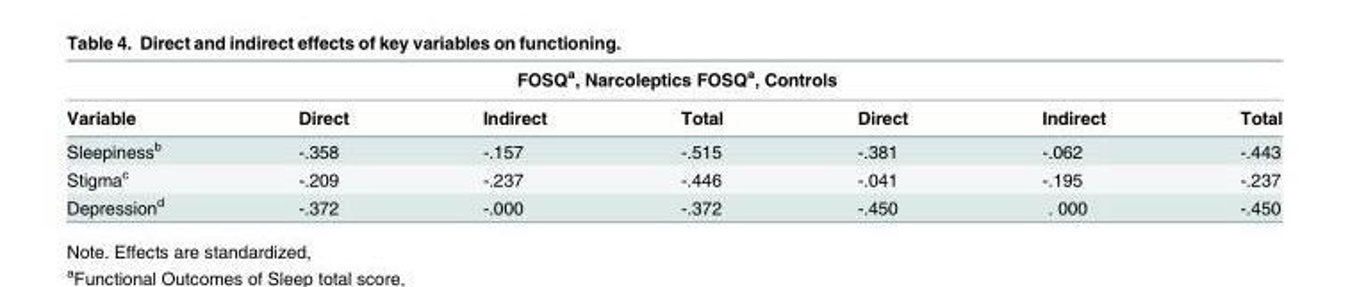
<table><thead><tr><td colspan="7">FOSQ<sup>a</sup>, Narcoleptics FOSQ<sup>a</sup>, Controls</td></tr><tr><td>Variable</td><td>Direct</td><td>Indirect</td><td>Total</td><td>Direct</td><td>Indirect</td><td>Total</td></tr></thead><tbody><tr><td>Sleepiness<sup>b</sup></td><td>-.358</td><td>-.157</td><td>-.515</td><td>-.381</td><td>-.062</td><td>-.443</td></tr><tr><td>Stigma<sup>c</sup></td><td>-.209</td><td>-.237</td><td>-.446</td><td>-.041</td><td>-.195</td><td>-.237</td></tr><tr><td>Depression<sup>d</sup></td><td>-.372</td><td>-.000</td><td>-.372</td><td>-.450</td><td>. 000</td><td>-.450</td></tr></tbody></table>